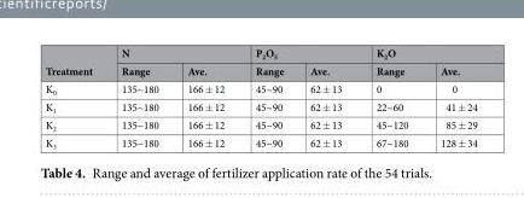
<table><thead><tr><td rowspan="2">Treatment</td><td colspan="2">N</td><td colspan="2">P<sub>2</sub>O<sub>5</sub></td><td colspan="2">K<sub>2</sub>O</td></tr><tr><td>Range</td><td>Ave.</td><td>Range</td><td>Ave.</td><td>Range</td><td>Ave.</td></tr></thead><tbody><tr><td>K<sub>0</sub></td><td>135~180</td><td>166 ± 12</td><td>45~90</td><td>62 ± 13</td><td>0</td><td>0</td></tr><tr><td>K<sub>1</sub></td><td>135~180</td><td>166 ± 12</td><td>45~90</td><td>62 ± 13</td><td>22~60</td><td>41 ± 24</td></tr><tr><td>K<sub>2</sub></td><td>135~180</td><td>166 ± 12</td><td>45~90</td><td>62 ± 13</td><td>45~120</td><td>85 ± 29</td></tr><tr><td>K<sub>3</sub></td><td>135~180</td><td>166 ± 12</td><td>45~90</td><td>62 ± 13</td><td>67~180</td><td>128 ± 34</td></tr></tbody></table>